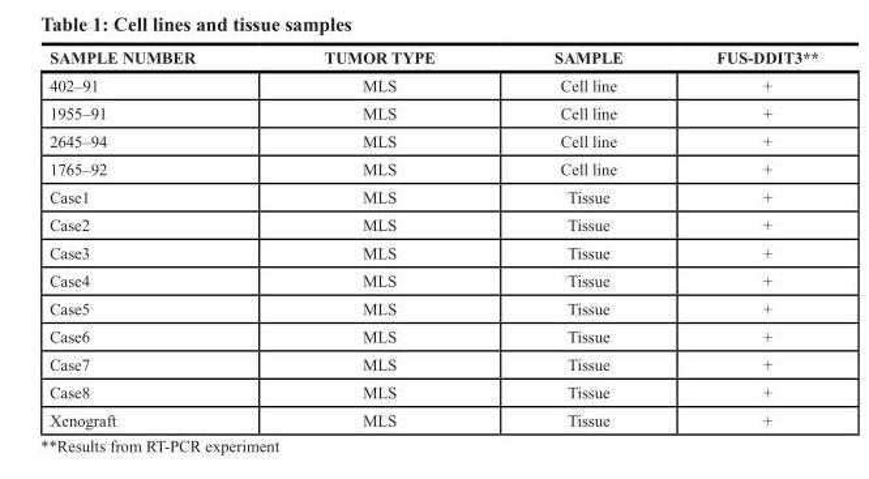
<table><thead><tr><td>SAMPLE NUMBER</td><td>TUMOR TYPE</td><td>SAMPLE</td><td>FUS-DDIT3**</td></tr></thead><tbody><tr><td>402–91</td><td>MLS</td><td>Cell line</td><td>+</td></tr><tr><td>1955–91</td><td>MLS</td><td>Cell line</td><td>+</td></tr><tr><td>2645–94</td><td>MLS</td><td>Cell line</td><td>+</td></tr><tr><td>1765–92</td><td>MLS</td><td>Cell line</td><td>+</td></tr><tr><td>Case1</td><td>MLS</td><td>Tissue</td><td>+</td></tr><tr><td>Case2</td><td>MLS</td><td>Tissue</td><td>+</td></tr><tr><td>Case3</td><td>MLS</td><td>Tissue</td><td>+</td></tr><tr><td>Case4</td><td>MLS</td><td>Tissue</td><td>+</td></tr><tr><td>Case5</td><td>MLS</td><td>Tissue</td><td>+</td></tr><tr><td>Case6</td><td>MLS</td><td>Tissue</td><td>+</td></tr><tr><td>Case7</td><td>MLS</td><td>Tissue</td><td>+</td></tr><tr><td>Case8</td><td>MLS</td><td>Tissue</td><td>+</td></tr><tr><td>Xenograft</td><td>MLS</td><td>Tissue</td><td>+</td></tr></tbody></table>